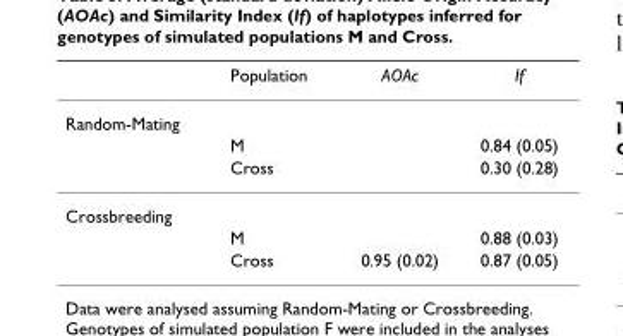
<table><thead><tr><td></td><td>Population</td><td>AOAc</td><td>If</td></tr></thead><tbody><tr><td colspan="4">Random-Mating</td></tr><tr><td></td><td>M</td><td></td><td>0.84 (0.05)</td></tr><tr><td></td><td>Cross</td><td></td><td>0.30 (0.28)</td></tr><tr><td colspan="4">Crossbreeding</td></tr><tr><td></td><td>M</td><td></td><td>0.88 (0.03)</td></tr><tr><td></td><td>Cross</td><td>0.95 (0.02)</td><td>0.87 (0.05)</td></tr></tbody></table>